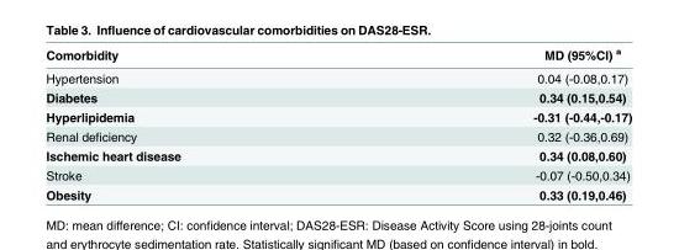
<table><thead><tr><td>Comorbidity</td><td>MD (95%CI) <sup>a</sup></td></tr></thead><tbody><tr><td>Hypertension</td><td>0.04 (-0.08,0.17)</td></tr><tr><td>Diabetes</td><td>0.34 (0.15,0.54)</td></tr><tr><td>Hyperlipidemia</td><td>-0.31 (-0.44,-0.17)</td></tr><tr><td>Renal deficiency</td><td>0.32 (-0.36,0.69)</td></tr><tr><td>Ischemic heart disease</td><td>0.34 (0.08,0.60)</td></tr><tr><td>Stroke</td><td>-0.07 (-0.50,0.34)</td></tr><tr><td>Obesity</td><td>0.33 (0.19,0.46)</td></tr></tbody></table>